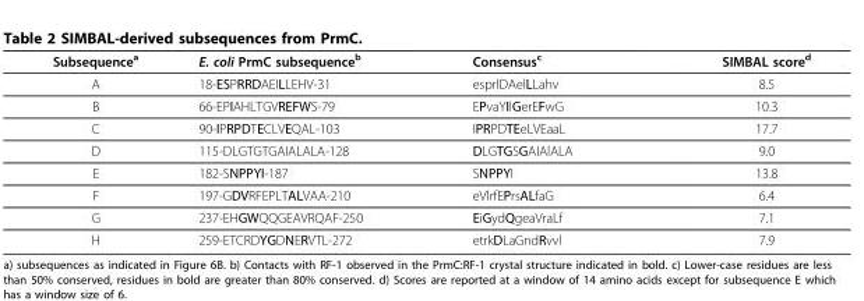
<table><thead><tr><td>Subsequence<sup>a</sup></td><td>E. coli PrmC subsequence<sup>b</sup></td><td>Consensus<sup>c</sup></td><td>SIMBAL score<sup>d</sup></td></tr></thead><tbody><tr><td>A</td><td>18-ESPRRDAEILLEHV-31</td><td>esprlDAelLLahv</td><td>8.5</td></tr><tr><td>B</td><td>66-EPIAHLTGVREFWS-79</td><td>EPvaYIlGerEFwG</td><td>10.3</td></tr><tr><td>C</td><td>90-IPRPDTECLVEQAL-103</td><td>IPRPDTEeLVEaaL</td><td>17.7</td></tr><tr><td>D</td><td>115-DLGTGTGAIALALA-128</td><td>DLGTGSGAIAlALA</td><td>9.0</td></tr><tr><td>E</td><td>182-SNPPYI-187</td><td>SNPPYI</td><td>13.8</td></tr><tr><td>F</td><td>197-GDVRFEPLTALVAA-210</td><td>eVlrfEPrsALfaG</td><td>6.4</td></tr><tr><td>G</td><td>237-EHGWQQGEAVRQAF-250</td><td>EiGydQgeaVraLf</td><td>7.1</td></tr><tr><td>H</td><td>259-ETCRDYGDNERVTL-272</td><td>etrkDLaGndRvvl</td><td>7.9</td></tr></tbody></table>